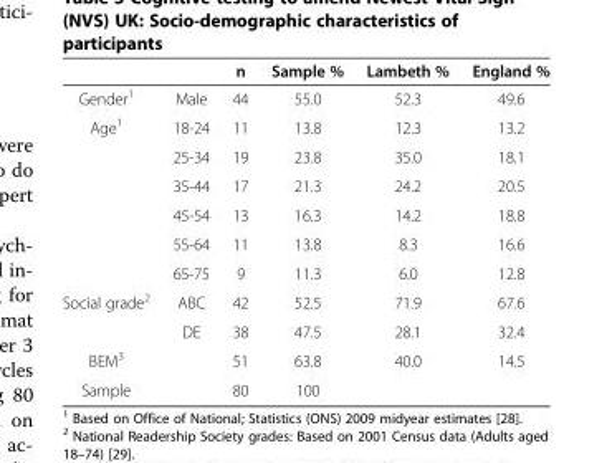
<table><thead><tr><td></td><td></td><td>n</td><td>Sample %</td><td>Lambeth %</td><td>England %</td></tr></thead><tbody><tr><td>Gender<sup>1</sup></td><td>Male</td><td>44</td><td>55.0</td><td>52.3</td><td>49.6</td></tr><tr><td rowspan="6">Age<sup>1</sup></td><td>18-24</td><td>11</td><td>13.8</td><td>12.3</td><td>13.2</td></tr><tr><td>25-34</td><td>19</td><td>23.8</td><td>35.0</td><td>18.1</td></tr><tr><td>35-44</td><td>17</td><td>21.3</td><td>24.2</td><td>20.5</td></tr><tr><td>45-54</td><td>13</td><td>16.3</td><td>14.2</td><td>18.8</td></tr><tr><td>55-64</td><td>11</td><td>13.8</td><td>8.3</td><td>16.6</td></tr><tr><td>65-75</td><td>9</td><td>11.3</td><td>6.0</td><td>12.8</td></tr><tr><td rowspan="2">Social grade<sup>2</sup></td><td>ABC</td><td>42</td><td>52.5</td><td>71.9</td><td>67.6</td></tr><tr><td>DE</td><td>38</td><td>47.5</td><td>28.1</td><td>32.4</td></tr><tr><td>BEM<sup>3</sup></td><td></td><td>51</td><td>63.8</td><td>40.0</td><td>14.5</td></tr><tr><td>Sample</td><td></td><td>80</td><td>100</td><td></td><td></td></tr></tbody></table>